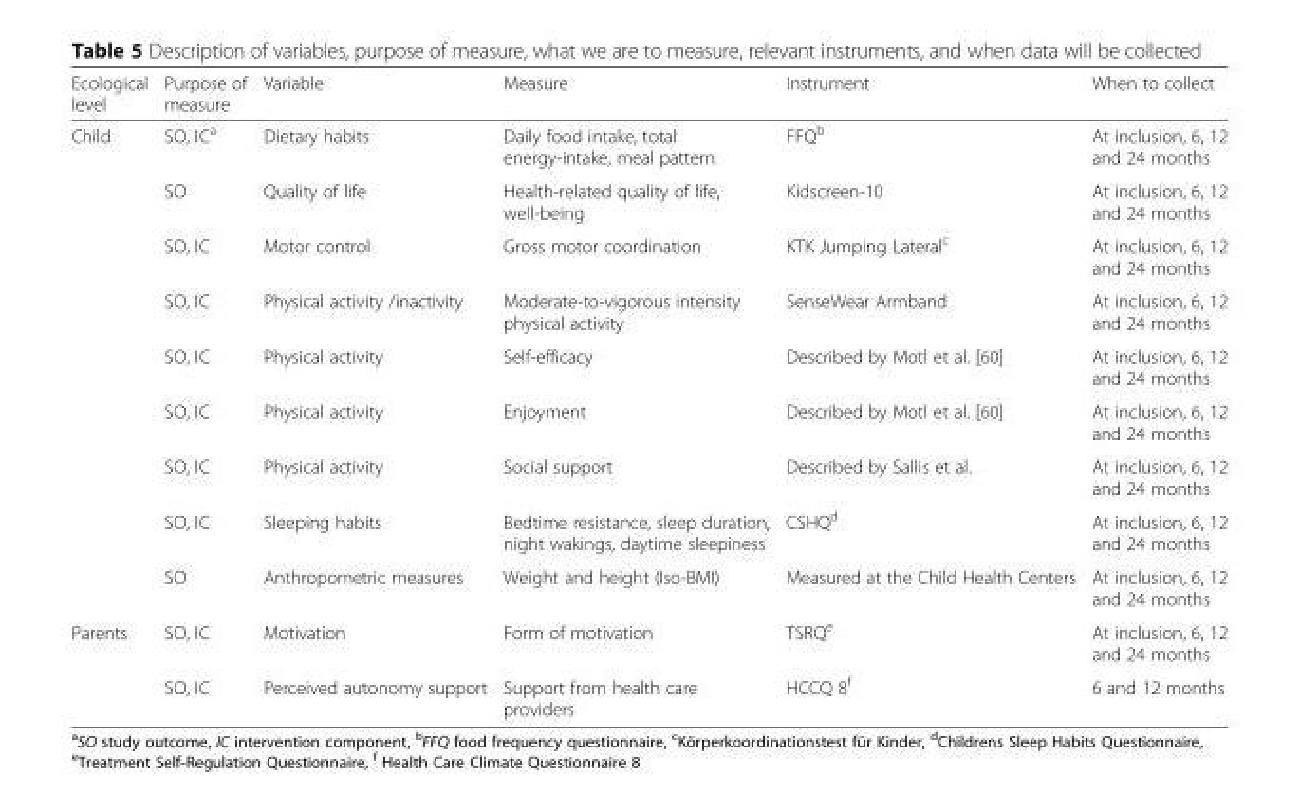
<table><thead><tr><td>Ecological level</td><td>Purpose of measure</td><td>Variable</td><td>Measure</td><td>Instrument</td><td>When to collect</td></tr></thead><tbody><tr><td rowspan="9">Child</td><td>SO, IC<sup>a</sup></td><td>Dietary habits</td><td>Daily food intake, total energy-intake, meal pattern</td><td>FFQ<sup>b</sup></td><td>At inclusion, 6, 12 and 24 months</td></tr><tr><td>SO</td><td>Quality of life</td><td>Health-related quality of life, well-being</td><td>Kidscreen-10</td><td>At inclusion, 6, 12 and 24 months</td></tr><tr><td>SO, IC</td><td>Motor control</td><td>Gross motor coordination</td><td>KTK Jumping Lateral<sup>c</sup></td><td>At inclusion, 6, 12 and 24 months</td></tr><tr><td>SO, IC</td><td>Physical activity /inactivity</td><td>Moderate-to-vigorous intensity physical activity</td><td>SenseWear Armband</td><td>At inclusion, 6, 12 and 24 months</td></tr><tr><td>SO, IC</td><td>Physical activity</td><td>Self-efficacy</td><td>Described by Motl et al. [60]</td><td>At inclusion, 6, 12 and 24 months</td></tr><tr><td>SO, IC</td><td>Physical activity</td><td>Enjoyment</td><td>Described by Motl et al. [60]</td><td>At inclusion, 6, 12 and 24 months</td></tr><tr><td>SO, IC</td><td>Physical activity</td><td>Social support</td><td>Described by Sallis et al.</td><td>At inclusion, 6, 12 and 24 months</td></tr><tr><td>SO, IC</td><td>Sleeping habits</td><td>Bedtime resistance, sleep duration, night wakings, daytime sleepiness</td><td>CSHQ<sup>d</sup></td><td>At inclusion, 6, 12 and 24 months</td></tr><tr><td>SO</td><td>Anthropometric measures</td><td>Weight and height (Iso-BMI)</td><td>Measured at the Child Health Centers</td><td>At inclusion, 6, 12 and 24 months</td></tr><tr><td rowspan="2">Parents</td><td>SO, IC</td><td>Motivation</td><td>Form of motivation</td><td>TSRQ<sup>e</sup></td><td>At inclusion, 6, 12 and 24 months</td></tr><tr><td>SO, IC</td><td>Perceived autonomy support</td><td>Support from health care providers</td><td>HCCQ 8<sup>f</sup></td><td>6 and 12 months</td></tr></tbody></table>